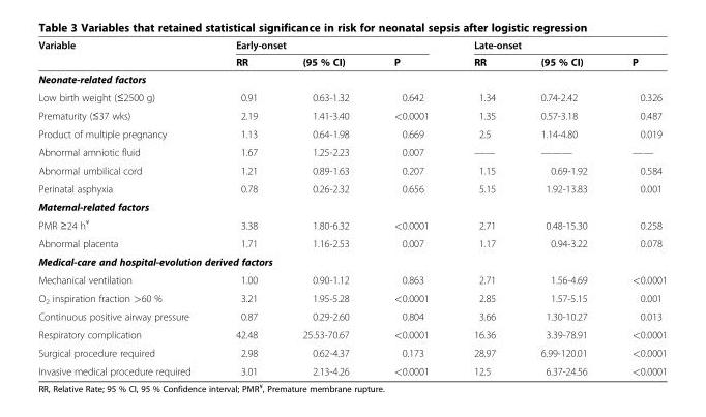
<table><thead><tr><td rowspan="2">Variable</td><td colspan="3">Early-onset</td><td colspan="3">Late-onset</td></tr><tr><td>RR</td><td>(95 % CI)</td><td>P</td><td>RR</td><td>(95 % CI)</td><td>P</td></tr></thead><tbody><tr><td colspan="7">Neonate-related factors</td></tr><tr><td>Low birth weight (≤2500 g)</td><td>0.91</td><td>0.63-1.32</td><td>0.642</td><td>1.34</td><td>0.74-2.42</td><td>0.326</td></tr><tr><td>Prematurity (≤37 wks)</td><td>2.19</td><td>1.41-3.40</td><td>&lt;0.0001</td><td>1.35</td><td>0.57-3.18</td><td>0.487</td></tr><tr><td>Product of multiple pregnancy</td><td>1.13</td><td>0.64-1.98</td><td>0.669</td><td>2.5</td><td>1.14-4.80</td><td>0.019</td></tr><tr><td>Abnormal amniotic fluid</td><td>1.67</td><td>1.25-2.23</td><td>0.007</td><td>——</td><td>———</td><td>——</td></tr><tr><td>Abnormal umbilical cord</td><td>1.21</td><td>0.89-1.63</td><td>0.207</td><td>1.15</td><td>0.69-1.92</td><td>0.584</td></tr><tr><td>Perinatal asphyxia</td><td>0.78</td><td>0.26-2.32</td><td>0.656</td><td>5.15</td><td>1.92-13.83</td><td>0.001</td></tr><tr><td colspan="7">Maternal-related factors</td></tr><tr><td>PMR ≥24 h<sup>¥</sup></td><td>3.38</td><td>1.80-6.32</td><td>&lt;0.0001</td><td>2.71</td><td>0.48-15.30</td><td>0.258</td></tr><tr><td>Abnormal placenta</td><td>1.71</td><td>1.16-2.53</td><td>0.007</td><td>1.17</td><td>0.94-3.22</td><td>0.078</td></tr><tr><td colspan="7">Medical-care and hospital-evolution derived factors</td></tr><tr><td>Mechanical ventilation</td><td>1.00</td><td>0.90-1.12</td><td>0.863</td><td>2.71</td><td>1.56-4.69</td><td>&lt;0.0001</td></tr><tr><td>O<sub>2</sub> inspiration fraction &gt;60 %</td><td>3.21</td><td>1.95-5.28</td><td>&lt;0.0001</td><td>2.85</td><td>1.57-5.15</td><td>0.001</td></tr><tr><td>Continuous positive airway pressure</td><td>0.87</td><td>0.29-2.60</td><td>0.804</td><td>3.66</td><td>1.30-10.27</td><td>0.013</td></tr><tr><td>Respiratory complication</td><td>42.48</td><td>25.53-70.67</td><td>&lt;0.0001</td><td>16.36</td><td>3.39-78.91</td><td>&lt;0.0001</td></tr><tr><td>Surgical procedure required</td><td>2.98</td><td>0.62-4.37</td><td>0.173</td><td>28.97</td><td>6.99-120.01</td><td>&lt;0.0001</td></tr><tr><td>Invasive medical procedure required</td><td>3.01</td><td>2.13-4.26</td><td>&lt;0.0001</td><td>12.5</td><td>6.37-24.56</td><td>&lt;0.0001</td></tr></tbody></table>